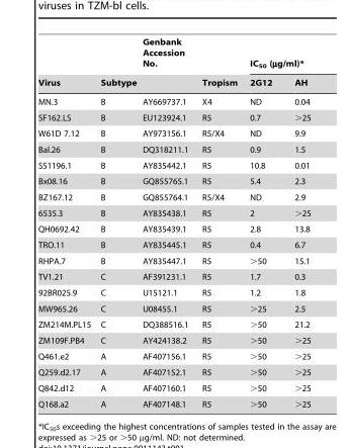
<table><thead><tr><td rowspan="2">Virus</td><td rowspan="2">Subtype</td><td rowspan="2">Genbank Accession No.</td><td rowspan="2">Tropism</td><td colspan="2">IC<sub>50</sub> (µg/ml)*</td></tr><tr><td>2G12</td><td>AH</td></tr></thead><tbody><tr><td>MN.3</td><td>B</td><td>AY669737.1</td><td>X4</td><td>ND</td><td>0.04</td></tr><tr><td>SF162.LS</td><td>B</td><td>EU123924.1</td><td>R5</td><td>0.7</td><td>&gt;25</td></tr><tr><td>W61D 7.12</td><td>B</td><td>AY973156.1</td><td>R5/X4</td><td>ND</td><td>9.9</td></tr><tr><td>Bal.26</td><td>B</td><td>DQ318211.1</td><td>R5</td><td>0.9</td><td>1.5</td></tr><tr><td>SS1196.1</td><td>B</td><td>AY835442.1</td><td>R5</td><td>10.8</td><td>0.01</td></tr><tr><td>Bx08.16</td><td>B</td><td>GQ855765.1</td><td>R5</td><td>5.4</td><td>2.3</td></tr><tr><td>BZ167.12</td><td>B</td><td>GQ855764.1</td><td>R5/X4</td><td>ND</td><td>2.9</td></tr><tr><td>6535.3</td><td>B</td><td>AY835438.1</td><td>R5</td><td>2</td><td>&gt;25</td></tr><tr><td>QH0692.42</td><td>B</td><td>AY835439.1</td><td>R5</td><td>2.8</td><td>13.8</td></tr><tr><td>TRO.11</td><td>B</td><td>AY835445.1</td><td>R5</td><td>0.4</td><td>6.7</td></tr><tr><td>RHPA.7</td><td>B</td><td>AY835447.1</td><td>R5</td><td>&gt;50</td><td>15.1</td></tr><tr><td>TV1.21</td><td>C</td><td>AF391231.1</td><td>R5</td><td>1.7</td><td>0.3</td></tr><tr><td>92BR025.9</td><td>C</td><td>U15121.1</td><td>R5</td><td>1.2</td><td>1.8</td></tr><tr><td>MW965.26</td><td>C</td><td>U08455.1</td><td>R5</td><td>&gt;25</td><td>2.5</td></tr><tr><td>ZM214M.PL15</td><td>C</td><td>DQ388516.1</td><td>R5</td><td>&gt;50</td><td>21.2</td></tr><tr><td>ZM109F.PB4</td><td>C</td><td>AY424138.2</td><td>R5</td><td>&gt;50</td><td>&gt;25</td></tr><tr><td>Q461.e2</td><td>A</td><td>AF407156.1</td><td>R5</td><td>&gt;50</td><td>&gt;25</td></tr><tr><td>Q259.d2.17</td><td>A</td><td>AF407152.1</td><td>R5</td><td>&gt;50</td><td>&gt;25</td></tr><tr><td>Q842.d12</td><td>A</td><td>AF407160.1</td><td>R5</td><td>&gt;50</td><td>&gt;25</td></tr><tr><td>Q168.a2</td><td>A</td><td>AF407148.1</td><td>R5</td><td>&gt;50</td><td>&gt;25</td></tr></tbody></table>